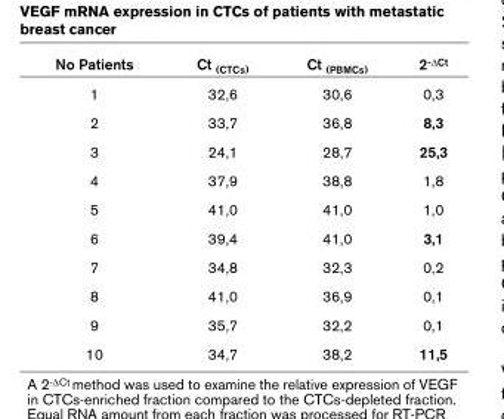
<table><thead><tr><td>No Patients</td><td>Ct <sub>(CTCs)</sub></td><td>Ct <sub>(PBMCs)</sub></td><td>2<sup>-ΔCt</sup></td></tr></thead><tbody><tr><td>1</td><td>32,6</td><td>30,6</td><td>0,3</td></tr><tr><td>2</td><td>33,7</td><td>36,8</td><td>8,3</td></tr><tr><td>3</td><td>24,1</td><td>28,7</td><td>25,3</td></tr><tr><td>4</td><td>37,9</td><td>38,8</td><td>1,8</td></tr><tr><td>5</td><td>41,0</td><td>41,0</td><td>1,0</td></tr><tr><td>6</td><td>39,4</td><td>41,0</td><td>3,1</td></tr><tr><td>7</td><td>34,8</td><td>32,3</td><td>0,2</td></tr><tr><td>8</td><td>41,0</td><td>36,9</td><td>0,1</td></tr><tr><td>9</td><td>35,7</td><td>32,2</td><td>0,1</td></tr><tr><td>10</td><td>34,7</td><td>38,2</td><td>11,5</td></tr></tbody></table>